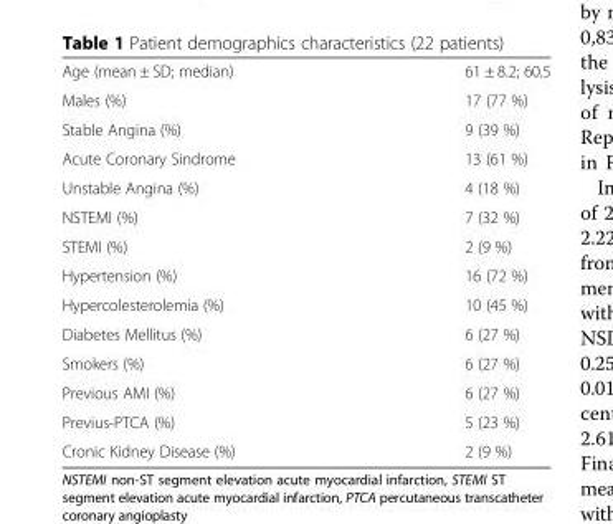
<table><tbody><tr><td>Age (mean ± SD; median)</td><td>61 ± 8.2; 60.5</td></tr><tr><td>Males (%)</td><td>17 (77 %)</td></tr><tr><td>Stable Angina (%)</td><td>9 (39 %)</td></tr><tr><td>Acute Coronary Sindrome</td><td>13 (61 %)</td></tr><tr><td>Unstable Angina (%)</td><td>4 (18 %)</td></tr><tr><td>NSTEMI (%)</td><td>7 (32 %)</td></tr><tr><td>STEMI (%)</td><td>2 (9 %)</td></tr><tr><td>Hypertension (%)</td><td>16 (72 %)</td></tr><tr><td>Hypercolesterolemia (%)</td><td>10 (45 %)</td></tr><tr><td>Diabetes Mellitus (%)</td><td>6 (27 %)</td></tr><tr><td>Smokers (%)</td><td>6 (27 %)</td></tr><tr><td>Previous AMI (%)</td><td>6 (27 %)</td></tr><tr><td>Previus-PTCA (%)</td><td>5 (23 %)</td></tr><tr><td>Cronic Kidney Disease (%)</td><td>2 (9 %)</td></tr></tbody></table>